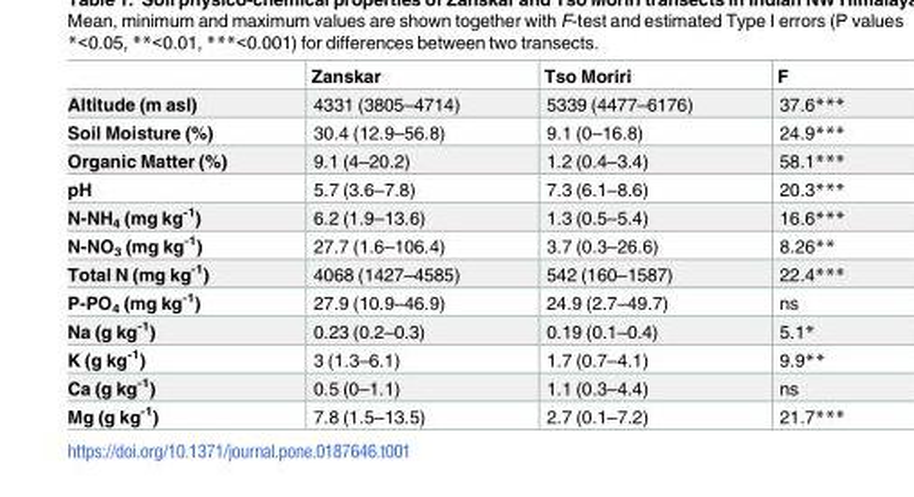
<table><thead><tr><td></td><td>Zanskar</td><td>Tso Moriri</td><td>F</td></tr></thead><tbody><tr><td>Altitude (m asl)</td><td>4331 (3805–4714)</td><td>5339 (4477–6176)</td><td>37.6***</td></tr><tr><td>Soil Moisture (%)</td><td>30.4 (12.9–56.8)</td><td>9.1 (0–16.8)</td><td>24.9***</td></tr><tr><td>Organic Matter (%)</td><td>9.1 (4–20.2)</td><td>1.2 (0.4–3.4)</td><td>58.1***</td></tr><tr><td>pH</td><td>5.7 (3.6–7.8)</td><td>7.3 (6.1–8.6)</td><td>20.3***</td></tr><tr><td>N-NH<sub>4</sub> (mg kg<sup>-1</sup>)</td><td>6.2 (1.9–13.6)</td><td>1.3 (0.5–5.4)</td><td>16.6***</td></tr><tr><td>N-NO<sub>3</sub> (mg kg<sup>-1</sup>)</td><td>27.7 (1.6–106.4)</td><td>3.7 (0.3–26.6)</td><td>8.26**</td></tr><tr><td>Total N (mg kg<sup>-1</sup>)</td><td>4068 (1427–4585)</td><td>542 (160–1587)</td><td>22.4***</td></tr><tr><td>P-PO<sub>4</sub> (mg kg<sup>-1</sup>)</td><td>27.9 (10.9–46.9)</td><td>24.9 (2.7–49.7)</td><td>ns</td></tr><tr><td>Na (g kg<sup>-1</sup>)</td><td>0.23 (0.2–0.3)</td><td>0.19 (0.1–0.4)</td><td>5.1*</td></tr><tr><td>K (g kg<sup>-1</sup>)</td><td>3 (1.3–6.1)</td><td>1.7 (0.7–4.1)</td><td>9.9**</td></tr><tr><td>Ca (g kg<sup>-1</sup>)</td><td>0.5 (0–1.1)</td><td>1.1 (0.3–4.4)</td><td>ns</td></tr><tr><td>Mg (g kg<sup>-1</sup>)</td><td>7.8 (1.5–13.5)</td><td>2.7 (0.1–7.2)</td><td>21.7***</td></tr></tbody></table>